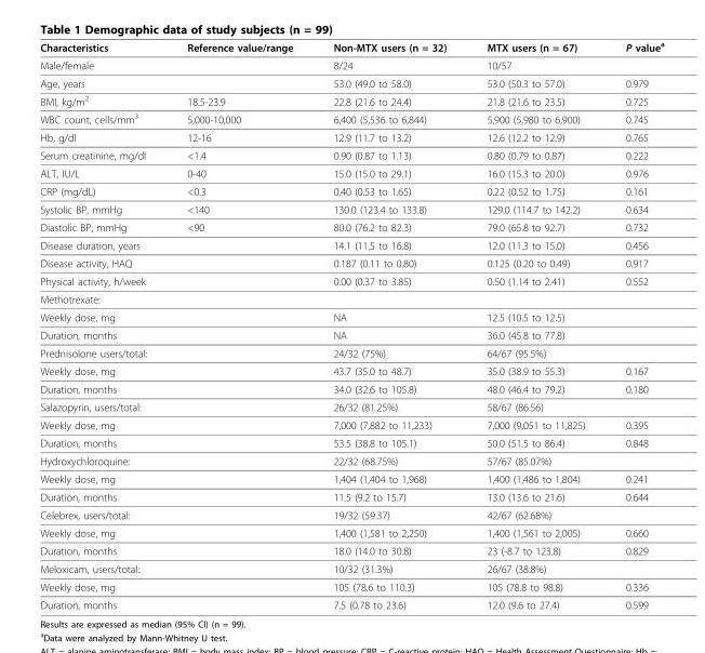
<table><thead><tr><td>Characteristics</td><td>Reference value/range</td><td>Non-MTX users (n = 32)</td><td>MTX users (n = 67)</td><td>P value<sup>a</sup></td></tr></thead><tbody><tr><td>Male/female</td><td></td><td>8/24</td><td>10/57</td><td></td></tr><tr><td>Age, years</td><td></td><td>53.0 (49.0 to 58.0)</td><td>53.0 (50.3 to 57.0)</td><td>0.979</td></tr><tr><td>BMI, kg/m<sup>2</sup></td><td>18.5-23.9</td><td>22.8 (21.6 to 24.4)</td><td>21.8 (21.6 to 23.5)</td><td>0.725</td></tr><tr><td>WBC count, cells/mm<sup>3</sup></td><td>5,000-10,000</td><td>6,400 (5,536 to 6,844)</td><td>5,900 (5,980 to 6,900)</td><td>0.745</td></tr><tr><td>Hb, g/dl</td><td>12-16</td><td>12.9 (11.7 to 13.2)</td><td>12.6 (12.2 to 12.9)</td><td>0.765</td></tr><tr><td>Serum creatinine, mg/dl</td><td>&lt;1.4</td><td>0.90 (0.87 to 1.13)</td><td>0.80 (0.79 to 0.87)</td><td>0.222</td></tr><tr><td>ALT, IU/L</td><td>0-40</td><td>15.0 (15.0 to 29.1)</td><td>16.0 (15.3 to 20.0)</td><td>0.976</td></tr><tr><td>CRP (mg/dL)</td><td>&lt;0.3</td><td>0.40 (0.53 to 1.65)</td><td>0.22 (0.52 to 1.75)</td><td>0.161</td></tr><tr><td>Systolic BP, mmHg</td><td>&lt;140</td><td>130.0 (123.4 to 133.8)</td><td>129.0 (114.7 to 142.2)</td><td>0.634</td></tr><tr><td>Diastolic BP, mmHg</td><td>&lt;90</td><td>80.0 (76.2 to 82.3)</td><td>79.0 (65.8 to 92.7)</td><td>0.732</td></tr><tr><td>Disease duration, years</td><td></td><td>14.1 (11.5 to 16.8)</td><td>12.0 (11.3 to 15.0)</td><td>0.456</td></tr><tr><td>Disease activity, HAQ</td><td></td><td>0.187 (0.11 to 0.80)</td><td>0.125 (0.20 to 0.49)</td><td>0.917</td></tr><tr><td>Physical activity, h/week</td><td></td><td>0.00 (0.37 to 3.85)</td><td>0.50 (1.14 to 2.41)</td><td>0.552</td></tr><tr><td colspan="5">Methotrexate:</td></tr><tr><td>Weekly dose, mg</td><td></td><td>NA</td><td>12.5 (10.5 to 12.5)</td><td></td></tr><tr><td>Duration, months</td><td></td><td>NA</td><td>36.0 (45.8 to 77.8)</td><td></td></tr><tr><td>Prednisolone users/total:</td><td></td><td>24/32 (75%)</td><td>64/67 (95.5%)</td><td></td></tr><tr><td>Weekly dose, mg</td><td></td><td>43.7 (35.0 to 48.7)</td><td>35.0 (38.9 to 55.3)</td><td>0.167</td></tr><tr><td>Duration, months</td><td></td><td>34.0 (32.6 to 105.8)</td><td>48.0 (46.4 to 79.2)</td><td>0.180</td></tr><tr><td>Salazopyrin, users/total:</td><td></td><td>26/32 (81.25%)</td><td>58/67 (86.56)</td><td></td></tr><tr><td>Weekly dose, mg</td><td></td><td>7,000 (7,882 to 11,233)</td><td>7,000 (9,051 to 11,825)</td><td>0.395</td></tr><tr><td>Duration, months</td><td></td><td>53.5 (38.8 to 105.1)</td><td>50.0 (51.5 to 86.4)</td><td>0.848</td></tr><tr><td>Hydroxychloroquine:</td><td></td><td>22/32 (68.75%)</td><td>57/67 (85.07%)</td><td></td></tr><tr><td>Weekly dose, mg</td><td></td><td>1,404 (1,404 to 1,968)</td><td>1,400 (1,486 to 1,804)</td><td>0.241</td></tr><tr><td>Duration, months</td><td></td><td>11.5 (9.2 to 15.7)</td><td>13.0 (13.6 to 21.6)</td><td>0.644</td></tr><tr><td>Celebrex, users/total:</td><td></td><td>19/32 (59.37)</td><td>42/67 (62.68%)</td><td></td></tr><tr><td>Weekly dose, mg</td><td></td><td>1,400 (1,581 to 2,250)</td><td>1,400 (1,561 to 2,005)</td><td>0.660</td></tr><tr><td>Duration, months</td><td></td><td>18.0 (14.0 to 30.8)</td><td>23 (-8.7 to 123.8)</td><td>0.829</td></tr><tr><td>Meloxicam, users/total:</td><td></td><td>10/32 (31.3%)</td><td>26/67 (38.8%)</td><td></td></tr><tr><td>Weekly dose, mg</td><td></td><td>105 (78.6 to 110.3)</td><td>105 (78.8 to 98.8)</td><td>0.336</td></tr><tr><td>Duration, months</td><td></td><td>7.5 (0.78 to 23.6)</td><td>12.0 (9.6 to 27.4)</td><td>0.599</td></tr></tbody></table>